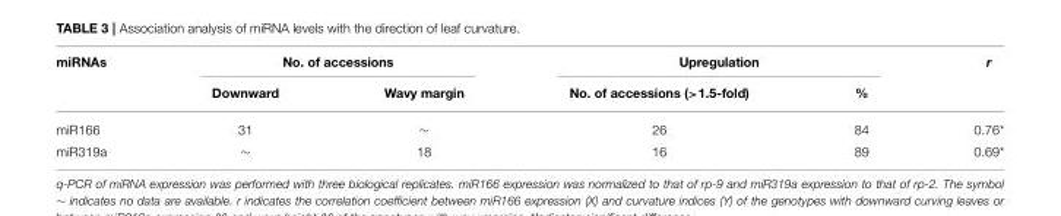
<table><thead><tr><td rowspan="2">miRNAs</td><td colspan="2">No. of accessions</td><td colspan="2">Upregulation</td><td rowspan="2">r</td></tr><tr><td>Downward</td><td>Wavy margin</td><td>No. of accessions (&gt;1.5-fold)</td><td>%</td></tr></thead><tbody><tr><td>miR166</td><td>31</td><td>∼</td><td>26</td><td>84</td><td>0.76*</td></tr><tr><td>miR319a</td><td>∼</td><td>18</td><td>16</td><td>89</td><td>0.69*</td></tr></tbody></table>